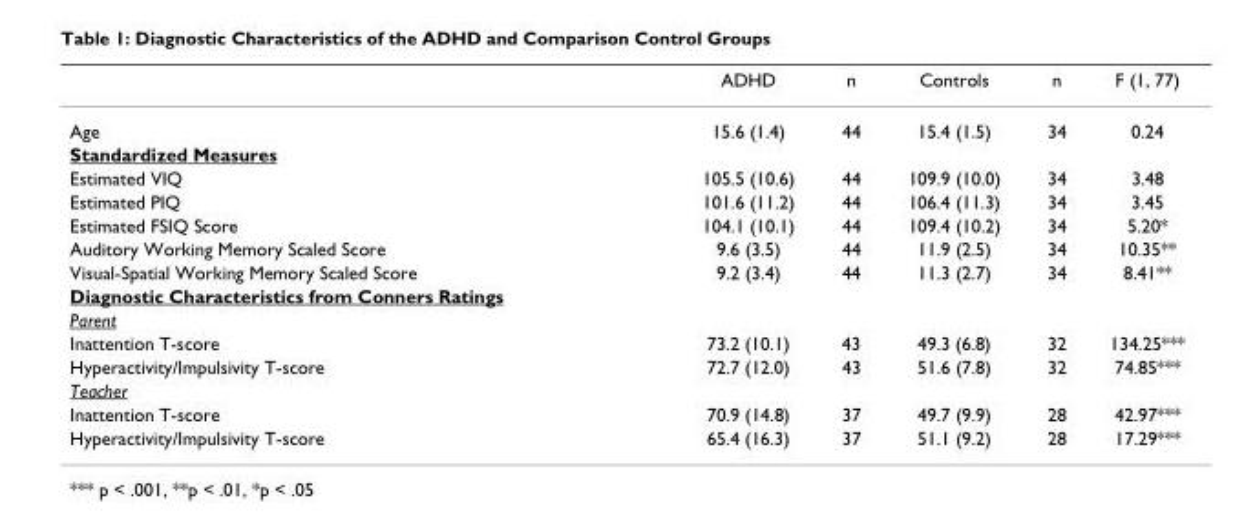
<table><thead><tr><td></td><td>ADHD</td><td>n</td><td>Controls</td><td>n</td><td>F (1, 77)</td></tr></thead><tbody><tr><td>Age</td><td>15.6 (1.4)</td><td>44</td><td>15.4 (1.5)</td><td>34</td><td>0.24</td></tr><tr><td colspan="6">Standardized Measures</td></tr><tr><td>Estimated VIQ</td><td>105.5 (10.6)</td><td>44</td><td>109.9 (10.0)</td><td>34</td><td>3.48</td></tr><tr><td>Estimated PIQ</td><td>101.6 (11.2)</td><td>44</td><td>106.4 (11.3)</td><td>34</td><td>3.45</td></tr><tr><td>Estimated FSIQ Score</td><td>104.1 (10.1)</td><td>44</td><td>109.4 (10.2)</td><td>34</td><td>5.20*</td></tr><tr><td>Auditory Working Memory Scaled Score</td><td>9.6 (3.5)</td><td>44</td><td>11.9 (2.5)</td><td>34</td><td>10.35**</td></tr><tr><td>Visual-Spatial Working Memory Scaled Score</td><td>9.2 (3.4)</td><td>44</td><td>11.3 (2.7)</td><td>34</td><td>8.41**</td></tr><tr><td colspan="6">Diagnostic Characteristics from Conners Ratings</td></tr><tr><td colspan="6">Parent</td></tr><tr><td>Inattention T-score</td><td>73.2 (10.1)</td><td>43</td><td>49.3 (6.8)</td><td>32</td><td>134.25***</td></tr><tr><td>Hyperactivity/Impulsivity T-score</td><td>72.7 (12.0)</td><td>43</td><td>51.6 (7.8)</td><td>32</td><td>74.85***</td></tr><tr><td colspan="6">Teacher</td></tr><tr><td>Inattention T-score</td><td>70.9 (14.8)</td><td>37</td><td>49.7 (9.9)</td><td>28</td><td>42.97***</td></tr><tr><td>Hyperactivity/Impulsivity T-score</td><td>65.4 (16.3)</td><td>37</td><td>51.1 (9.2)</td><td>28</td><td>17.29***</td></tr></tbody></table>